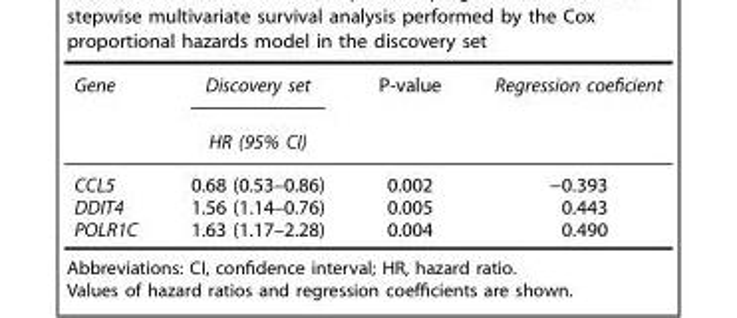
<table><thead><tr><td rowspan="2">Gene</td><td rowspan="2">Discovery set HR (95% CI)</td><td rowspan="2">P-value</td><td rowspan="2">Regression coeficient</td></tr><tr></tr></thead><tbody><tr><td>CCL5</td><td>0.68 (0.53–0.86)</td><td>0.002</td><td>−0.393</td></tr><tr><td>DDIT4</td><td>1.56 (1.14–0.76)</td><td>0.005</td><td>0.443</td></tr><tr><td>POLR1C</td><td>1.63 (1.17–2.28)</td><td>0.004</td><td>0.490</td></tr></tbody></table>